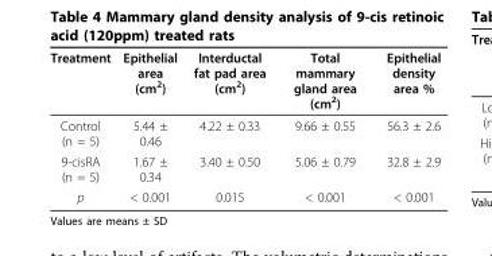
<table><thead><tr><td>Treatment</td><td>Epithelial area (cm<sup>2</sup>)</td><td>Interductal fat pad area (cm<sup>2</sup>)</td><td>Total mammary gland area (cm<sup>2</sup>)</td><td>Epithelial density area %</td></tr></thead><tbody><tr><td>Control (n = 5)</td><td>5.44 ± 0.46</td><td>4.22 ± 0.33</td><td>9.66 ± 0.55</td><td>56.3 ± 2.6</td></tr><tr><td>9-cisRA (n = 5)</td><td>1.67 ± 0.34</td><td>3.40 ± 0.50</td><td>5.06 ± 0.79</td><td>32.8 ± 2.9</td></tr><tr><td>p</td><td>&lt; 0.001</td><td>0.015</td><td>&lt; 0.001</td><td>&lt; 0.001</td></tr></tbody></table>